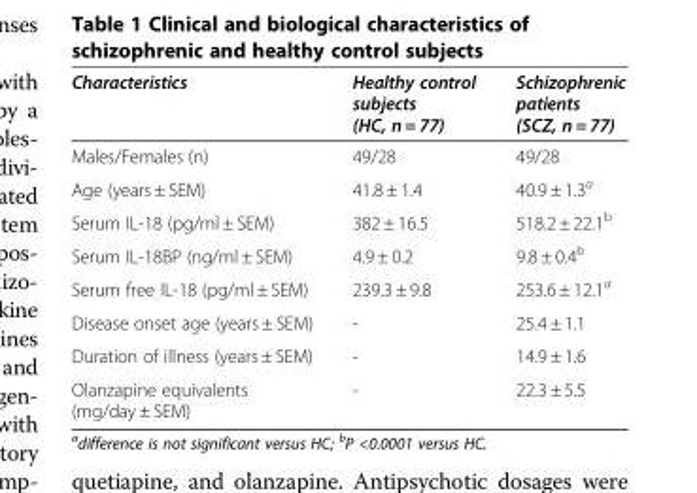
<table><thead><tr><td>Characteristics</td><td>Healthy control subjects (HC, n = 77)</td><td>Schizophrenic patients (SCZ, n = 77)</td></tr></thead><tbody><tr><td>Males/Females (n)</td><td>49/28</td><td>49/28</td></tr><tr><td>Age (years ± SEM)</td><td>41.8 ± 1.4</td><td>40.9 ± 1.3<sup>a</sup></td></tr><tr><td>Serum IL-18 (pg/ml ± SEM)</td><td>382 ± 16.5</td><td>518.2 ± 22.1<sup>b</sup></td></tr><tr><td>Serum IL-18BP (ng/ml ± SEM)</td><td>4.9 ± 0.2</td><td>9.8 ± 0.4<sup>b</sup></td></tr><tr><td>Serum free IL-18 (pg/ml ± SEM)</td><td>239.3 ± 9.8</td><td>253.6 ± 12.1<sup>a</sup></td></tr><tr><td>Disease onset age (years ± SEM)</td><td>-</td><td>25.4 ± 1.1</td></tr><tr><td>Duration of illness (years ± SEM)</td><td>-</td><td>14.9 ± 1.6</td></tr><tr><td>Olanzapine equivalents (mg/day ± SEM)</td><td>-</td><td>22.3 ± 5.5</td></tr></tbody></table>